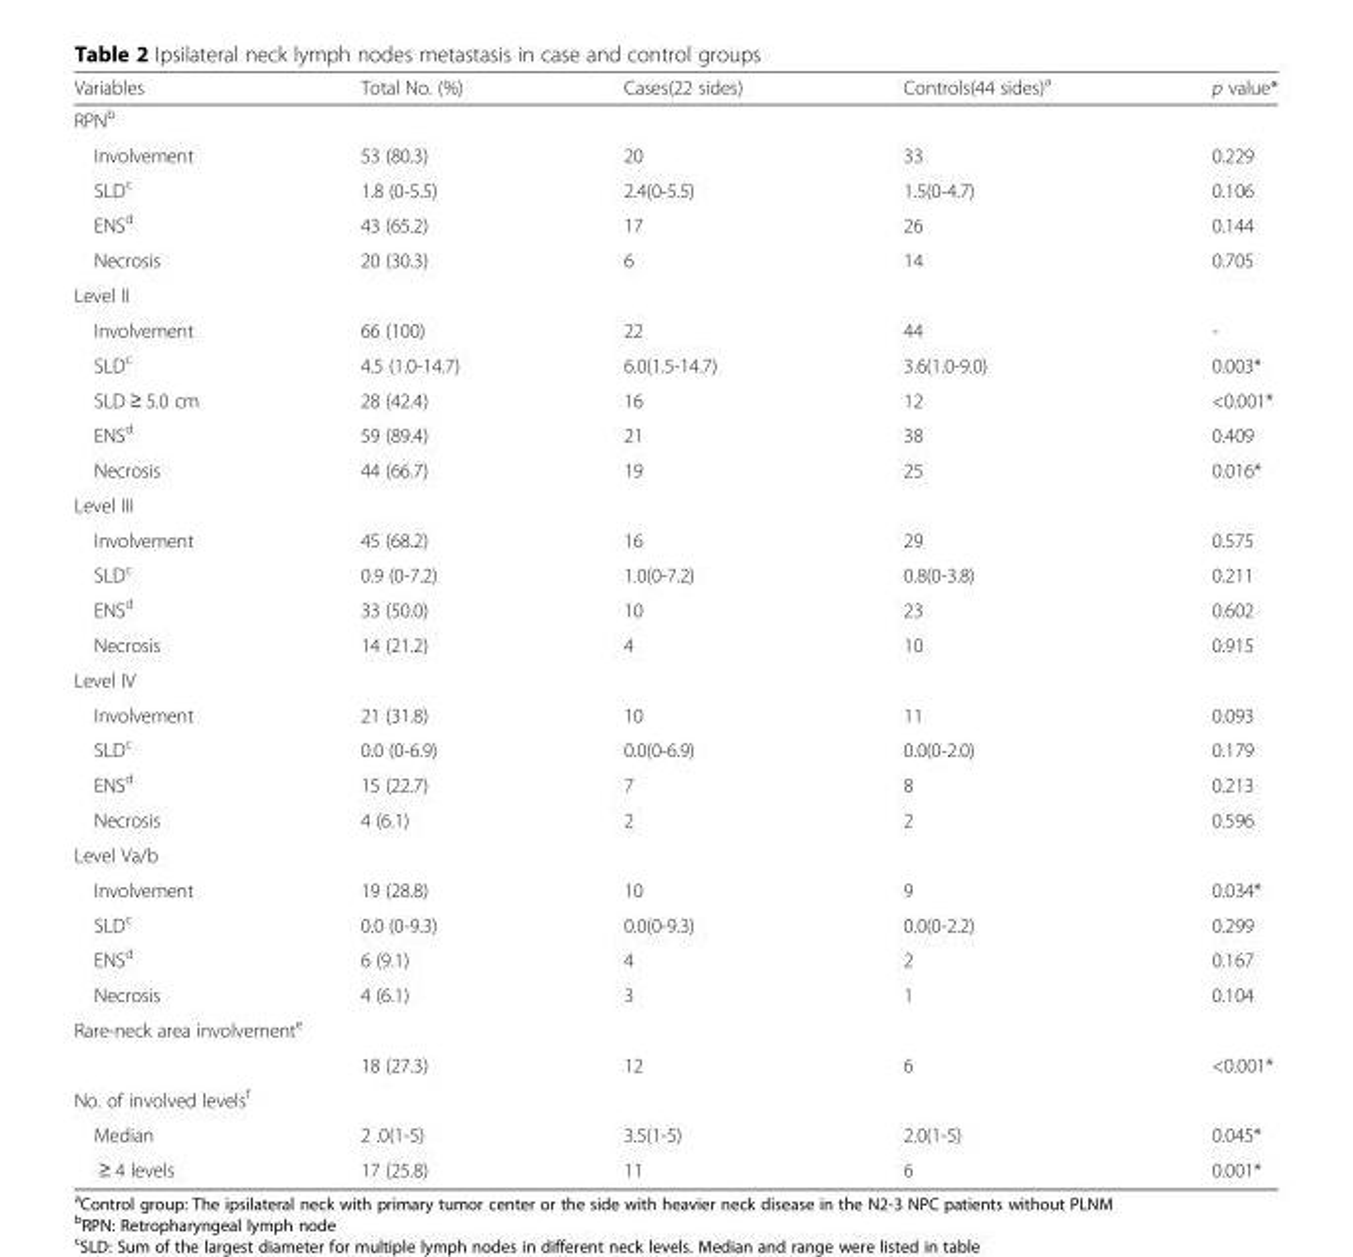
<table><thead><tr><td>Variables</td><td>Total No. (%)</td><td>Cases(22 sides)</td><td>Controls(44 sides)<sup>a</sup></td><td>p value*</td></tr></thead><tbody><tr><td colspan="5">RPN<sup>b</sup></td></tr><tr><td>Involvement</td><td>53 (80.3)</td><td>20</td><td>33</td><td>0.229</td></tr><tr><td>SLD<sup>c</sup></td><td>1.8 (0-5.5)</td><td>2.4(0-5.5)</td><td>1.5(0-4.7)</td><td>0.106</td></tr><tr><td>ENS<sup>d</sup></td><td>43 (65.2)</td><td>17</td><td>26</td><td>0.144</td></tr><tr><td>Necrosis</td><td>20 (30.3)</td><td>6</td><td>14</td><td>0.705</td></tr><tr><td colspan="5">Level II</td></tr><tr><td>Involvement</td><td>66 (100)</td><td>22</td><td>44</td><td>-</td></tr><tr><td>SLD<sup>c</sup></td><td>4.5 (1.0-14.7)</td><td>6.0(1.5-14.7)</td><td>3.6(1.0-9.0)</td><td>0.003*</td></tr><tr><td>SLD ≥ 5.0 cm</td><td>28 (42.4)</td><td>16</td><td>12</td><td>&lt;0.001*</td></tr><tr><td>ENS<sup>d</sup></td><td>59 (89.4)</td><td>21</td><td>38</td><td>0.409</td></tr><tr><td>Necrosis</td><td>44 (66.7)</td><td>19</td><td>25</td><td>0.016*</td></tr><tr><td colspan="5">Level III</td></tr><tr><td>Involvement</td><td>45 (68.2)</td><td>16</td><td>29</td><td>0.575</td></tr><tr><td>SLD<sup>c</sup></td><td>0.9 (0-7.2)</td><td>1.0(0-7.2)</td><td>0.8(0-3.8)</td><td>0.211</td></tr><tr><td>ENS<sup>d</sup></td><td>33 (50.0)</td><td>10</td><td>23</td><td>0.602</td></tr><tr><td>Necrosis</td><td>14 (21.2)</td><td>4</td><td>10</td><td>0.915</td></tr><tr><td colspan="5">Level IV</td></tr><tr><td>Involvement</td><td>21 (31.8)</td><td>10</td><td>11</td><td>0.093</td></tr><tr><td>SLD<sup>c</sup></td><td>0.0 (0-6.9)</td><td>0.0(0-6.9)</td><td>0.0(0-2.0)</td><td>0.179</td></tr><tr><td>ENS<sup>d</sup></td><td>15 (22.7)</td><td>7</td><td>8</td><td>0.213</td></tr><tr><td>Necrosis</td><td>4 (6.1)</td><td>2</td><td>2</td><td>0.596</td></tr><tr><td colspan="5">Level Va/b</td></tr><tr><td>Involvement</td><td>19 (28.8)</td><td>10</td><td>9</td><td>0.034*</td></tr><tr><td>SLD<sup>c</sup></td><td>0.0 (0-9.3)</td><td>0.0(0-9.3)</td><td>0.0(0-2.2)</td><td>0.299</td></tr><tr><td>ENS<sup>d</sup></td><td>6 (9.1)</td><td>4</td><td>2</td><td>0.167</td></tr><tr><td>Necrosis</td><td>4 (6.1)</td><td>3</td><td>1</td><td>0.104</td></tr><tr><td colspan="5">Rare-neck area involvement<sup>e</sup></td></tr><tr><td></td><td>18 (27.3)</td><td>12</td><td>6</td><td>&lt;0.001*</td></tr><tr><td colspan="5">No. of involved levels<sup>f</sup></td></tr><tr><td>Median</td><td>2 .0(1-5)</td><td>3.5(1-5)</td><td>2.0(1-5)</td><td>0.045*</td></tr><tr><td>≥ 4 levels</td><td>17 (25.8)</td><td>11</td><td>6</td><td>0.001*</td></tr></tbody></table>